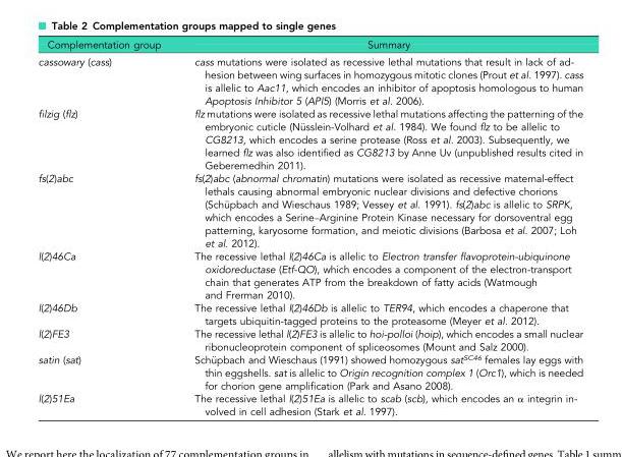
<table><thead><tr><td>Complementation group</td><td>Summary</td></tr></thead><tbody><tr><td>cassowary (cass)</td><td>cass mutations were isolated as recessive lethal mutations that result in lack of ad- hesion between wing surfaces in homozygous mitotic clones (Prout et al. 1997). cass is allelic to Aac11, which encodes an inhibitor of apoptosis homologous to human Apoptosis Inhibitor 5 (API5) (Morris et al. 2006).</td></tr><tr><td>filzig (flz)</td><td>flz mutations were isolated as recessive lethal mutations affecting the patterning of the embryonic cuticle (Nüsslein-Volhard et al. 1984). We found flz to be allelic to CG8213, which encodes a serine protease (Ross et al. 2003). Subsequently, we learned flz was also identified as CG8213 by Anne Uv (unpublished results cited in Geberemedhin 2011).</td></tr><tr><td>fs(2)abc</td><td>fs(2)abc (abnormal chromatin) mutations were isolated as recessive maternal-effect lethals causing abnormal embryonic nuclear divisions and defective chorions (Schüpbach and Wieschaus 1989; Vessey et al. 1991). fs(2)abc is allelic to SRPK, which encodes a Serine–Arginine Protein Kinase necessary for dorsoventral egg patterning, karyosome formation, and meiotic divisions (Barbosa et al. 2007; Loh et al. 2012).</td></tr><tr><td>l(2)46Ca</td><td>The recessive lethal l(2)46Ca is allelic to Electron transfer flavoprotein-ubiquinone oxidoreductase (Etf-QO), which encodes a component of the electron-transport chain that generates ATP from the breakdown of fatty acids (Watmough and Frerman 2010).</td></tr><tr><td>l(2)46Db</td><td>The recessive lethal l(2)46Db is allelic to TER94, which encodes a chaperone that targets ubiquitin-tagged proteins to the proteasome (Meyer et al. 2012).</td></tr><tr><td>l(2)FE3</td><td>The recessive lethal l(2)FE3 is allelic to hoi-polloi (hoip), which encodes a small nuclear ribonucleoprotein component of spliceosomes (Mount and Salz 2000).</td></tr><tr><td>satin (sat)</td><td>Schüpbach and Wieschaus (1991) showed homozygous sat<sup>SC46</sup> females lay eggs with thin eggshells. sat is allelic to Origin recognition complex 1 (Orc1), which is needed for chorion gene amplification (Park and Asano 2008).</td></tr><tr><td>l(2)51Ea</td><td>The recessive lethal l(2)51Ea is allelic to scab (scb), which encodes an a integrin in- volved in cell adhesion (Stark et al. 1997).</td></tr></tbody></table>